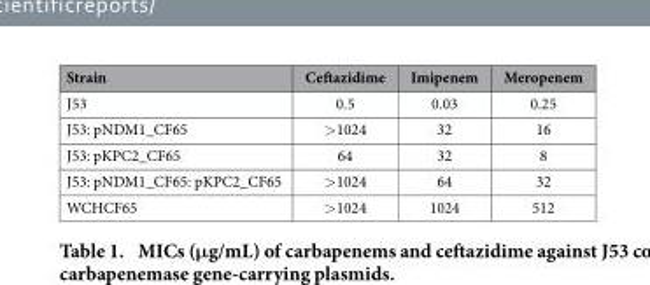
<table><thead><tr><td>Strain</td><td>Ceftazidime</td><td>Imipenem</td><td>Meropenem</td></tr></thead><tbody><tr><td>J53</td><td>0.5</td><td>0.03</td><td>0.25</td></tr><tr><td>J53: pNDM1_CF65</td><td>&gt; 1024</td><td>32</td><td>16</td></tr><tr><td>J53: pKPC2_CF65</td><td>64</td><td>32</td><td>8</td></tr><tr><td>J53: pNDM1_CF65: pKPC2_CF65</td><td>&gt; 1024</td><td>64</td><td>32</td></tr><tr><td>WCHCF65</td><td>&gt; 1024</td><td>1024</td><td>512</td></tr></tbody></table>